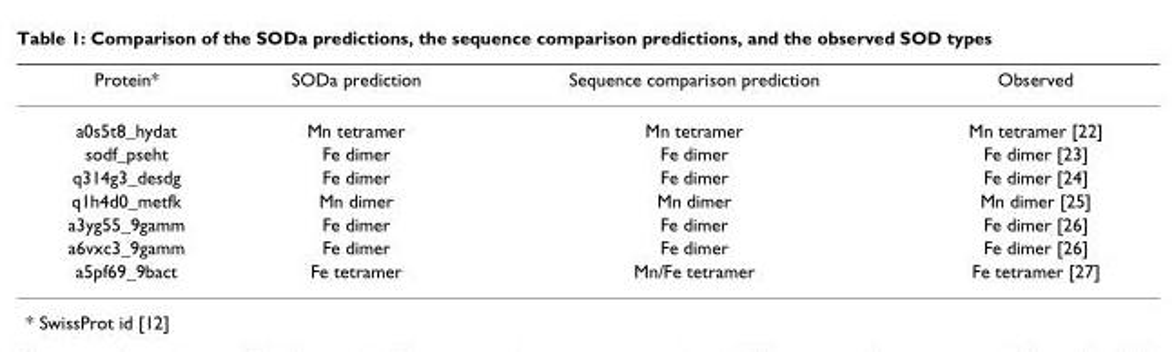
<table><thead><tr><td>Protein*</td><td>SODa prediction</td><td>Sequence comparison prediction</td><td>Observed</td></tr></thead><tbody><tr><td>a0s5t8_hydat</td><td>Mn tetramer</td><td>Mn tetramer</td><td>Mn tetramer [22]</td></tr><tr><td>sodf_pseht</td><td>Fe dimer</td><td>Fe dimer</td><td>Fe dimer [23]</td></tr><tr><td>q314g3_desdg</td><td>Fe dimer</td><td>Fe dimer</td><td>Fe dimer [24]</td></tr><tr><td>q1h4d0_metfk</td><td>Mn dimer</td><td>Mn dimer</td><td>Mn dimer [25]</td></tr><tr><td>a3yg55_9gamm</td><td>Fe dimer</td><td>Fe dimer</td><td>Fe dimer [26]</td></tr><tr><td>a6vxc3_9gamm</td><td>Fe dimer</td><td>Fe dimer</td><td>Fe dimer [26]</td></tr><tr><td>a5pf69_9bact</td><td>Fe tetramer</td><td>Mn/Fe tetramer</td><td>Fe tetramer [27]</td></tr></tbody></table>